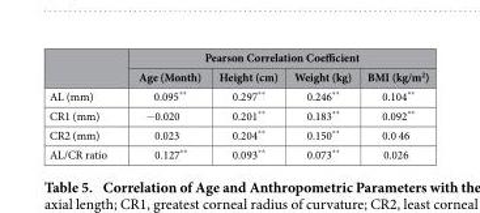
<table><thead><tr><td rowspan="2"></td><td colspan="4">Pearson Correlation Coefficient</td></tr><tr><td>Age (Month)</td><td>Height (cm)</td><td>Weight (kg)</td><td>BMI (kg/m<sup>2</sup>)</td></tr></thead><tbody><tr><td>AL (mm)</td><td>0.095**</td><td>0.297**</td><td>0.246**</td><td>0.104**</td></tr><tr><td>CR1 (mm)</td><td>− 0.020</td><td>0.201**</td><td>0.183**</td><td>0.092**</td></tr><tr><td>CR2 (mm)</td><td>0.023</td><td>0.204**</td><td>0.150**</td><td>0.0 46</td></tr><tr><td>AL/CR ratio</td><td>0.127**</td><td>0.093**</td><td>0.073**</td><td>0.026</td></tr></tbody></table>